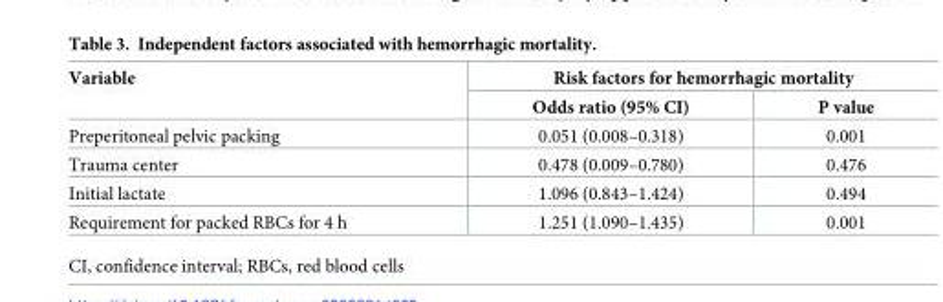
<table><thead><tr><td rowspan="2">Variable</td><td colspan="2">Risk factors for hemorrhagic mortality</td></tr><tr><td>Odds ratio (95% CI)</td><td>P value</td></tr></thead><tbody><tr><td>Preperitoneal pelvic packing</td><td>0.051 (0.008–0.318)</td><td>0.001</td></tr><tr><td>Trauma center</td><td>0.478 (0.009–0.780)</td><td>0.476</td></tr><tr><td>Initial lactate</td><td>1.096 (0.843–1.424)</td><td>0.494</td></tr><tr><td>Requirement for packed RBCs for 4 h</td><td>1.251 (1.090–1.435)</td><td>0.001</td></tr></tbody></table>